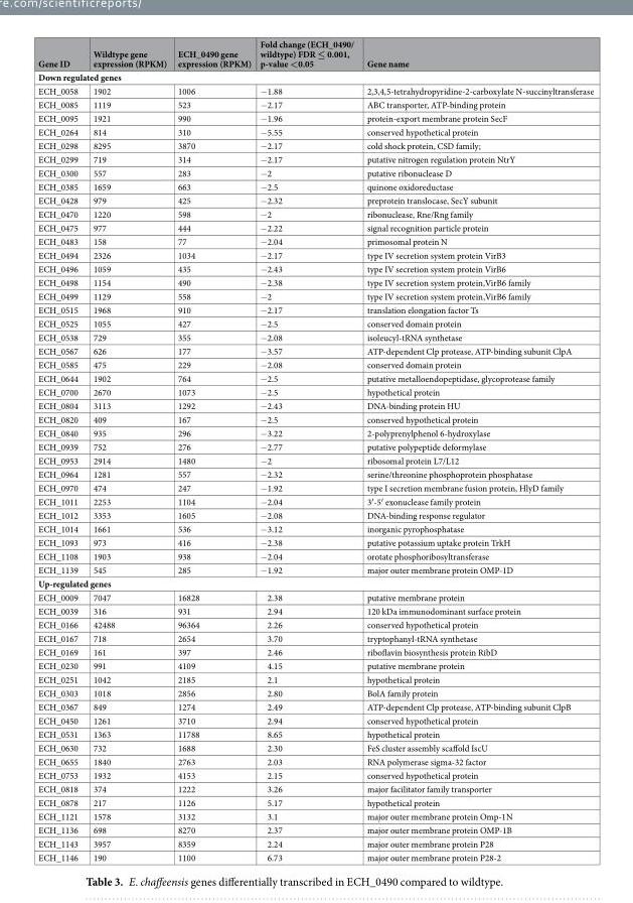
<table><thead><tr><td>Gene ID</td><td>Wildtype gene expression (RPKM)</td><td>ECH_0490 gene expression (RPKM)</td><td>Fold change (ECH_0490/ wildtype) FDR ≤ 0.001, p-value &lt;0.05</td><td>Gene name</td></tr></thead><tbody><tr><td colspan="5">Down regulated genes</td></tr><tr><td>ECH_0058</td><td>1902</td><td>1006</td><td>−1.88</td><td>2,3,4,5-tetrahydropyridine-2-carboxylate N-succinyltransferase</td></tr><tr><td>ECH_0085</td><td>1119</td><td>523</td><td>−2.17</td><td>ABC transporter, ATP-binding protein</td></tr><tr><td>ECH_0095</td><td>1921</td><td>990</td><td>−1.96</td><td>protein-export membrane protein SecF</td></tr><tr><td>ECH_0264</td><td>814</td><td>310</td><td>−5.55</td><td>conserved hypothetical protein</td></tr><tr><td>ECH_0298</td><td>8295</td><td>3870</td><td>−2.17</td><td>cold shock protein, CSD family;</td></tr><tr><td>ECH_0299</td><td>719</td><td>314</td><td>−2.17</td><td>putative nitrogen regulation protein NtrY</td></tr><tr><td>ECH_0300</td><td>557</td><td>283</td><td>−2</td><td>putative ribonuclease D</td></tr><tr><td>ECH_0385</td><td>1659</td><td>663</td><td>−2.5</td><td>quinone oxidoreductase</td></tr><tr><td>ECH_0428</td><td>979</td><td>425</td><td>−2.32</td><td>preprotein translocase, SecY subunit</td></tr><tr><td>ECH_0470</td><td>1220</td><td>598</td><td>−2</td><td>ribonuclease, Rne/Rng family</td></tr><tr><td>ECH_0475</td><td>977</td><td>444</td><td>−2.22</td><td>signal recognition particle protein</td></tr><tr><td>ECH_0483</td><td>158</td><td>77</td><td>−2.04</td><td>primosomal protein N</td></tr><tr><td>ECH_0494</td><td>2326</td><td>1034</td><td>−2.17</td><td>type IV secretion system protein VirB3</td></tr><tr><td>ECH_0496</td><td>1059</td><td>435</td><td>−2.43</td><td>type IV secretion system protein VirB6</td></tr><tr><td>ECH_0498</td><td>1154</td><td>490</td><td>−2.38</td><td>type IV secretion system protein,VirB6 family</td></tr><tr><td>ECH_0499</td><td>1129</td><td>558</td><td>−2</td><td>type IV secretion system protein,VirB6 family</td></tr><tr><td>ECH_0515</td><td>1968</td><td>910</td><td>−2.17</td><td>translation elongation factor Ts</td></tr><tr><td>ECH_0525</td><td>1055</td><td>427</td><td>−2.5</td><td>conserved domain protein</td></tr><tr><td>ECH_0538</td><td>729</td><td>355</td><td>−2.08</td><td>isoleucyl-tRNA synthetase</td></tr><tr><td>ECH_0567</td><td>626</td><td>177</td><td>−3.57</td><td>ATP-dependent Clp protease, ATP-binding subunit ClpA</td></tr><tr><td>ECH_0585</td><td>475</td><td>229</td><td>−2.08</td><td>conserved domain protein</td></tr><tr><td>ECH_0644</td><td>1902</td><td>764</td><td>−2.5</td><td>putative metalloendopeptidase, glycoprotease family</td></tr><tr><td>ECH_0700</td><td>2670</td><td>1073</td><td>−2.5</td><td>hypothetical protein</td></tr><tr><td>ECH_0804</td><td>3113</td><td>1292</td><td>−2.43</td><td>DNA-binding protein HU</td></tr><tr><td>ECH_0820</td><td>409</td><td>167</td><td>−2.5</td><td>conserved hypothetical protein</td></tr><tr><td>ECH_0840</td><td>935</td><td>296</td><td>−3.22</td><td>2-polyprenylphenol 6-hydroxylase</td></tr><tr><td>ECH_0939</td><td>752</td><td>276</td><td>−2.77</td><td>putative polypeptide deformylase</td></tr><tr><td>ECH_0953</td><td>2914</td><td>1480</td><td>−2</td><td>ribosomal protein L7/L12</td></tr><tr><td>ECH_0964</td><td>1281</td><td>557</td><td>−2.32</td><td>serine/threonine phosphoprotein phosphatase</td></tr><tr><td>ECH_0970</td><td>474</td><td>247</td><td>−1.92</td><td>type I secretion membrane fusion protein, HlyD family</td></tr><tr><td>ECH_1011</td><td>2253</td><td>1104</td><td>−2.04</td><td>3′-5′ exonuclease family protein</td></tr><tr><td>ECH_1012</td><td>3353</td><td>1605</td><td>−2.08</td><td>DNA-binding response regulator</td></tr><tr><td>ECH_1014</td><td>1661</td><td>536</td><td>−3.12</td><td>inorganic pyrophosphatase</td></tr><tr><td>ECH_1093</td><td>973</td><td>416</td><td>−2.38</td><td>putative potassium uptake protein TrkH</td></tr><tr><td>ECH_1108</td><td>1903</td><td>938</td><td>−2.04</td><td>orotate phosphoribosyltransferase</td></tr><tr><td>ECH_1139</td><td>545</td><td>285</td><td>−1.92</td><td>major outer membrane protein OMP-1D</td></tr><tr><td colspan="5">Up-regulated genes</td></tr><tr><td>ECH_0009</td><td>7047</td><td>16828</td><td>2.38</td><td>putative membrane protein</td></tr><tr><td>ECH_0039</td><td>316</td><td>931</td><td>2.94</td><td>120 kDa immunodominant surface protein</td></tr><tr><td>ECH_0166</td><td>42488</td><td>96364</td><td>2.26</td><td>conserved hypothetical protein</td></tr><tr><td>ECH_0167</td><td>718</td><td>2654</td><td>3.70</td><td>tryptophanyl-tRNA synthetase</td></tr><tr><td>ECH_0169</td><td>161</td><td>397</td><td>2.46</td><td>riboflavin biosynthesis protein RibD</td></tr><tr><td>ECH_0230</td><td>991</td><td>4109</td><td>4.15</td><td>putative membrane protein</td></tr><tr><td>ECH_0251</td><td>1042</td><td>2185</td><td>2.1</td><td>hypothetical protein</td></tr><tr><td>ECH_0303</td><td>1018</td><td>2856</td><td>2.80</td><td>BolA family protein</td></tr><tr><td>ECH_0367</td><td>849</td><td>1274</td><td>2.49</td><td>ATP-dependent Clp protease, ATP-binding subunit ClpB</td></tr><tr><td>ECH_0450</td><td>1261</td><td>3710</td><td>2.94</td><td>conserved hypothetical protein</td></tr><tr><td>ECH_0531</td><td>1363</td><td>11788</td><td>8.65</td><td>hypothetical protein</td></tr><tr><td>ECH_0630</td><td>732</td><td>1688</td><td>2.30</td><td>FeS cluster assembly scaffold IscU</td></tr><tr><td>ECH_0655</td><td>1840</td><td>2763</td><td>2.03</td><td>RNA polymerase sigma-32 factor</td></tr><tr><td>ECH_0753</td><td>1932</td><td>4153</td><td>2.15</td><td>conserved hypothetical protein</td></tr><tr><td>ECH_0818</td><td>374</td><td>1222</td><td>3.26</td><td>major facilitator family transporter</td></tr><tr><td>ECH_0878</td><td>217</td><td>1126</td><td>5.17</td><td>hypothetical protein</td></tr><tr><td>ECH_1121</td><td>1578</td><td>3132</td><td>3.1</td><td>major outer membrane protein Omp-1N</td></tr><tr><td>ECH_1136</td><td>698</td><td>8270</td><td>2.37</td><td>major outer membrane protein OMP-1B</td></tr><tr><td>ECH_1143</td><td>3957</td><td>8359</td><td>2.24</td><td>major outer membrane protein P28</td></tr><tr><td>ECH_1146</td><td>190</td><td>1100</td><td>6.73</td><td>major outer membrane protein P28-2</td></tr></tbody></table>